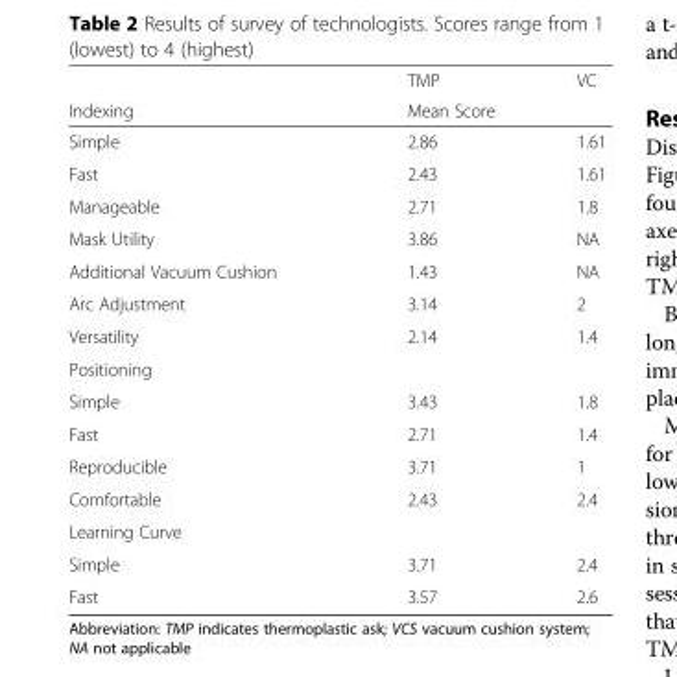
<table><thead><tr><td rowspan="2">Indexing</td><td>TMP</td><td>VC</td></tr><tr><td colspan="2">Mean Score</td></tr></thead><tbody><tr><td>Simple</td><td>2.86</td><td>1.61</td></tr><tr><td>Fast</td><td>2.43</td><td>1.61</td></tr><tr><td>Manageable</td><td>2.71</td><td>1.8</td></tr><tr><td>Mask Utility</td><td>3.86</td><td>NA</td></tr><tr><td>Additional Vacuum Cushion</td><td>1.43</td><td>NA</td></tr><tr><td>Arc Adjustment</td><td>3.14</td><td>2</td></tr><tr><td>Versatility</td><td>2.14</td><td>1.4</td></tr><tr><td colspan="3">Positioning</td></tr><tr><td>Simple</td><td>3.43</td><td>1.8</td></tr><tr><td>Fast</td><td>2.71</td><td>1.4</td></tr><tr><td>Reproducible</td><td>3.71</td><td>1</td></tr><tr><td>Comfortable</td><td>2.43</td><td>2.4</td></tr><tr><td colspan="3">Learning Curve</td></tr><tr><td>Simple</td><td>3.71</td><td>2.4</td></tr><tr><td>Fast</td><td>3.57</td><td>2.6</td></tr></tbody></table>